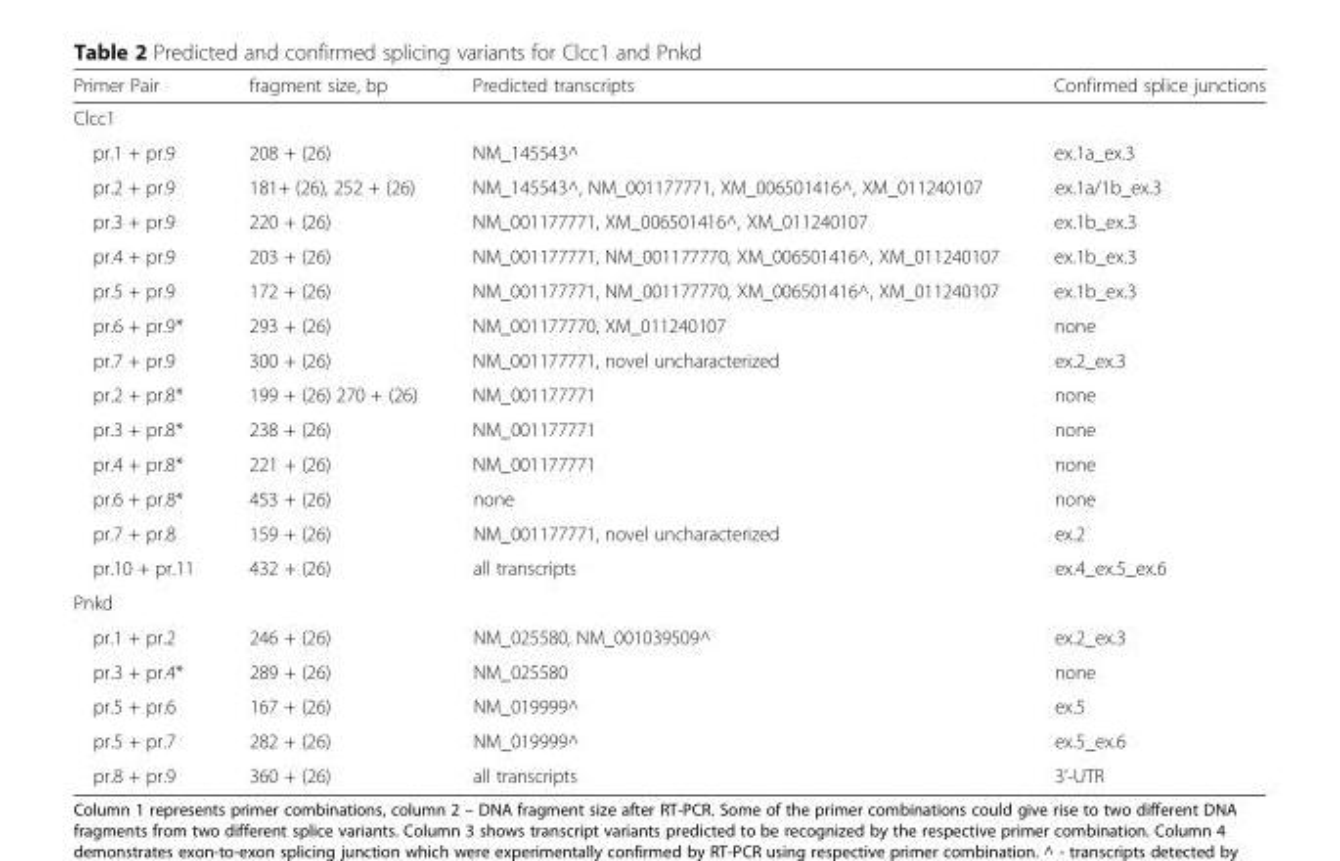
<table><thead><tr><td>Primer Pair</td><td>fragment size, bp</td><td>Predicted transcripts</td><td>Confirmed splice junctions</td></tr></thead><tbody><tr><td colspan="4">Clcc1</td></tr><tr><td>pr.1 + pr.9</td><td>208 + (26)</td><td>NM_145543^</td><td>ex.1a_ex.3</td></tr><tr><td>pr.2 + pr.9</td><td>181+ (26), 252 + (26)</td><td>NM_145543^, NM_001177771, XM_006501416^, XM_011240107</td><td>ex.1a/1b_ex.3</td></tr><tr><td>pr.3 + pr.9</td><td>220 + (26)</td><td>NM_001177771, XM_006501416^, XM_011240107</td><td>ex.1b_ex.3</td></tr><tr><td>pr.4 + pr.9</td><td>203 + (26)</td><td>NM_001177771, NM_001177770, XM_006501416^, XM_011240107</td><td>ex.1b_ex.3</td></tr><tr><td>pr.5 + pr.9</td><td>172 + (26)</td><td>NM_001177771, NM_001177770, XM_006501416^, XM_011240107</td><td>ex.1b_ex.3</td></tr><tr><td>pr.6 + pr.9*</td><td>293 + (26)</td><td>NM_001177770, XM_011240107</td><td>none</td></tr><tr><td>pr.7 + pr.9</td><td>300 + (26)</td><td>NM_001177771, novel uncharacterized</td><td>ex.2_ex.3</td></tr><tr><td>pr.2 + pr.8*</td><td>199 + (26) 270 + (26)</td><td>NM_001177771</td><td>none</td></tr><tr><td>pr.3 + pr.8*</td><td>238 + (26)</td><td>NM_001177771</td><td>none</td></tr><tr><td>pr.4 + pr.8*</td><td>221 + (26)</td><td>NM_001177771</td><td>none</td></tr><tr><td>pr.6 + pr.8*</td><td>453 + (26)</td><td>none</td><td>none</td></tr><tr><td>pr.7 + pr.8</td><td>159 + (26)</td><td>NM_001177771, novel uncharacterized</td><td>ex.2</td></tr><tr><td>pr.10 + pr.11</td><td>432 + (26)</td><td>all transcripts</td><td>ex.4_ex.5_ex.6</td></tr><tr><td colspan="4">Pnkd</td></tr><tr><td>pr.1 + pr.2</td><td>246 + (26)</td><td>NM_025580, NM_001039509^</td><td>ex.2_ex.3</td></tr><tr><td>pr.3 + pr.4*</td><td>289 + (26)</td><td>NM_025580</td><td>none</td></tr><tr><td>pr.5 + pr.6</td><td>167 + (26)</td><td>NM_019999^</td><td>ex.5</td></tr><tr><td>pr.5 + pr.7</td><td>282 + (26)</td><td>NM_019999^</td><td>ex.5_ex.6</td></tr><tr><td>pr.8 + pr.9</td><td>360 + (26)</td><td>all transcripts</td><td>3’-UTR</td></tr></tbody></table>